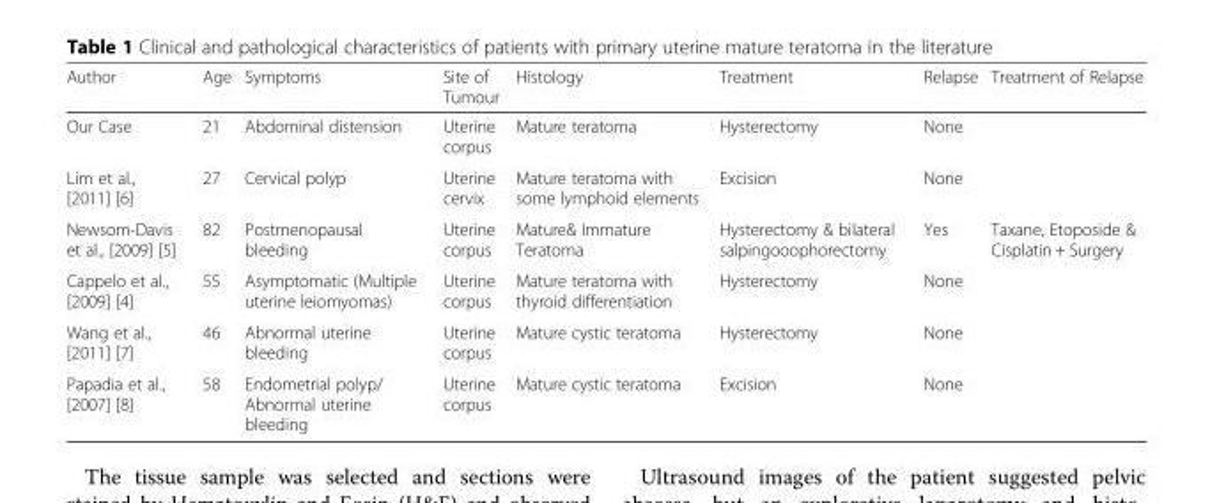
<table><thead><tr><td>Author</td><td>Age</td><td>Symptoms</td><td>Site of Tumour</td><td>Histology</td><td>Treatment</td><td>Relapse</td><td>Treatment of Relapse</td></tr></thead><tbody><tr><td>Our Case</td><td>21</td><td>Abdominal distension</td><td>Uterine corpus</td><td>Mature teratoma</td><td>Hysterectomy</td><td>None</td><td></td></tr><tr><td>Lim et al., [2011] [6]</td><td>27</td><td>Cervical polyp</td><td>Uterine cervix</td><td>Mature teratoma with some lymphoid elements</td><td>Excision</td><td>None</td><td></td></tr><tr><td>Newsom-Davis et al., [2009] [5]</td><td>82</td><td>Postmenopausal bleeding</td><td>Uterine corpus</td><td>Mature&amp; Immature Teratoma</td><td>Hysterectomy &amp; bilateral salpingooophorectomy</td><td>Yes</td><td>Taxane, Etoposide &amp; Cisplatin + Surgery</td></tr><tr><td>Cappelo et al., [2009] [4]</td><td>55</td><td>Asymptomatic (Multiple uterine leiomyomas)</td><td>Uterine corpus</td><td>Mature teratoma with thyroid differentiation</td><td>Hysterectomy</td><td>None</td><td></td></tr><tr><td>Wang et al., [2011] [7]</td><td>46</td><td>Abnormal uterine bleeding</td><td>Uterine corpus</td><td>Mature cystic teratoma</td><td>Hysterectomy</td><td>None</td><td></td></tr><tr><td>Papadia et al., [2007] [8]</td><td>58</td><td>Endometrial polyp/ Abnormal uterine bleeding</td><td>Uterine corpus</td><td>Mature cystic teratoma</td><td>Excision</td><td>None</td><td></td></tr></tbody></table>